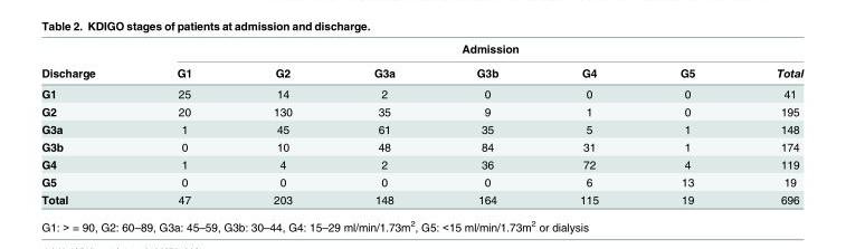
<table><thead><tr><td rowspan="2">Discharge</td><td colspan="7">Admission</td></tr><tr><td>G1</td><td>G2</td><td>G3a</td><td>G3b</td><td>G4</td><td>G5</td><td>Total</td></tr></thead><tbody><tr><td>G1</td><td>25</td><td>14</td><td>2</td><td>0</td><td>0</td><td>0</td><td>41</td></tr><tr><td>G2</td><td>20</td><td>130</td><td>35</td><td>9</td><td>1</td><td>0</td><td>195</td></tr><tr><td>G3a</td><td>1</td><td>45</td><td>61</td><td>35</td><td>5</td><td>1</td><td>148</td></tr><tr><td>G3b</td><td>0</td><td>10</td><td>48</td><td>84</td><td>31</td><td>1</td><td>174</td></tr><tr><td>G4</td><td>1</td><td>4</td><td>2</td><td>36</td><td>72</td><td>4</td><td>119</td></tr><tr><td>G5</td><td>0</td><td>0</td><td>0</td><td>0</td><td>6</td><td>13</td><td>19</td></tr><tr><td>Total</td><td>47</td><td>203</td><td>148</td><td>164</td><td>115</td><td>19</td><td>696</td></tr></tbody></table>